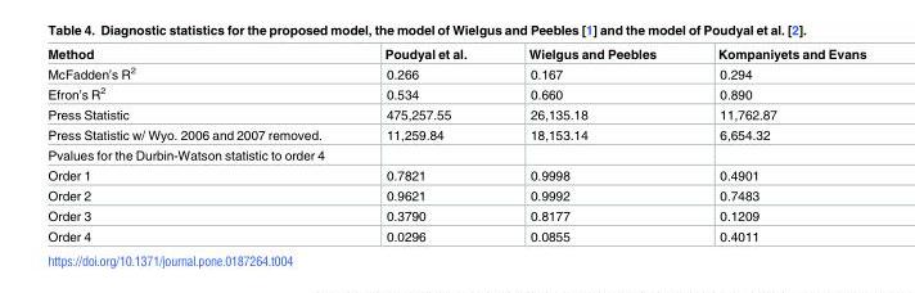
<table><thead><tr><td>Method</td><td>Poudyal et al.</td><td>Wielgus and Peebles</td><td>Kompaniyets and Evans</td></tr></thead><tbody><tr><td>McFadden’s R<sup>2</sup></td><td>0.266</td><td>0.167</td><td>0.294</td></tr><tr><td>Efron’s R<sup>2</sup></td><td>0.534</td><td>0.660</td><td>0.890</td></tr><tr><td>Press Statistic</td><td>475,257.55</td><td>26,135.18</td><td>11,762.87</td></tr><tr><td>Press Statistic w/ Wyo. 2006 and 2007 removed.</td><td>11,259.84</td><td>18,153.14</td><td>6,654.32</td></tr><tr><td colspan="4">Pvalues for the Durbin-Watson statistic to order 4</td></tr><tr><td>Order 1</td><td>0.7821</td><td>0.9998</td><td>0.4901</td></tr><tr><td>Order 2</td><td>0.9621</td><td>0.9992</td><td>0.7483</td></tr><tr><td>Order 3</td><td>0.3790</td><td>0.8177</td><td>0.1209</td></tr><tr><td>Order 4</td><td>0.0296</td><td>0.0855</td><td>0.4011</td></tr></tbody></table>